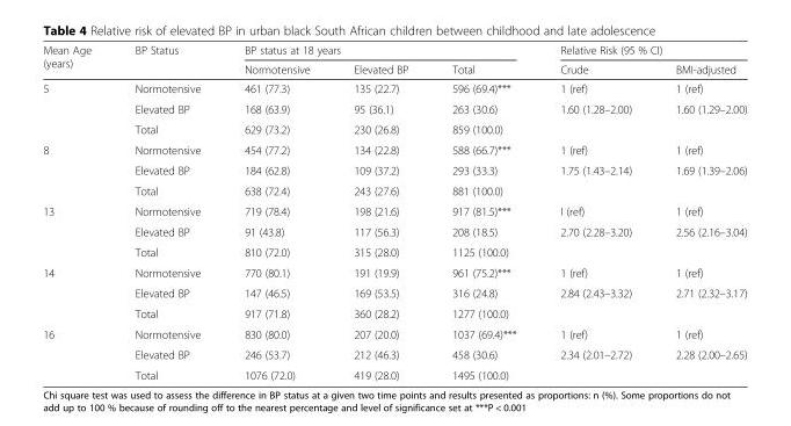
<table><thead><tr><td rowspan="2">Mean Age (years)</td><td rowspan="2">BP Status</td><td colspan="3">BP status at 18 years</td><td colspan="2">Relative Risk (95 % CI)</td></tr><tr><td>Normotensive</td><td>Elevated BP</td><td>Total</td><td>Crude</td><td>BMI-adjusted</td></tr></thead><tbody><tr><td rowspan="3">5</td><td>Normotensive</td><td>461 (77.3)</td><td>135 (22.7)</td><td>596 (69.4)***</td><td>1 (ref)</td><td>1 (ref)</td></tr><tr><td>Elevated BP</td><td>168 (63.9)</td><td>95 (36.1)</td><td>263 (30.6)</td><td>1.60 (1.28–2.00)</td><td>1.60 (1.29–2.00)</td></tr><tr><td>Total</td><td>629 (73.2)</td><td>230 (26.8)</td><td>859 (100.0)</td><td></td><td></td></tr><tr><td rowspan="3">8</td><td>Normotensive</td><td>454 (77.2)</td><td>134 (22.8)</td><td>588 (66.7)***</td><td>1 (ref)</td><td>1 (ref)</td></tr><tr><td>Elevated BP</td><td>184 (62.8)</td><td>109 (37.2)</td><td>293 (33.3)</td><td>1.75 (1.43–2.14)</td><td>1.69 (1.39–2.06)</td></tr><tr><td>Total</td><td>638 (72.4)</td><td>243 (27.6)</td><td>881 (100.0)</td><td></td><td></td></tr><tr><td rowspan="3">13</td><td>Normotensive</td><td>719 (78.4)</td><td>198 (21.6)</td><td>917 (81.5)***</td><td>I (ref)</td><td>1 (ref)</td></tr><tr><td>Elevated BP</td><td>91 (43.8)</td><td>117 (56.3)</td><td>208 (18.5)</td><td>2.70 (2.28–3.20)</td><td>2.56 (2.16–3.04)</td></tr><tr><td>Total</td><td>810 (72.0)</td><td>315 (28.0)</td><td>1125 (100.0)</td><td></td><td></td></tr><tr><td rowspan="3">14</td><td>Normotensive</td><td>770 (80.1)</td><td>191 (19.9)</td><td>961 (75.2)***</td><td>1 (ref)</td><td>1 (ref)</td></tr><tr><td>Elevated BP</td><td>147 (46.5)</td><td>169 (53.5)</td><td>316 (24.8)</td><td>2.84 (2.43–3.32)</td><td>2.71 (2.32–3.17)</td></tr><tr><td>Total</td><td>917 (71.8)</td><td>360 (28.2)</td><td>1277 (100.0)</td><td></td><td></td></tr><tr><td rowspan="3">16</td><td>Normotensive</td><td>830 (80.0)</td><td>207 (20.0)</td><td>1037 (69.4)***</td><td>1 (ref)</td><td>1 (ref)</td></tr><tr><td>Elevated BP</td><td>246 (53.7)</td><td>212 (46.3)</td><td>458 (30.6)</td><td>2.34 (2.01–2.72)</td><td>2.28 (2.00–2.65)</td></tr><tr><td>Total</td><td>1076 (72.0)</td><td>419 (28.0)</td><td>1495 (100.0)</td><td></td><td></td></tr></tbody></table>